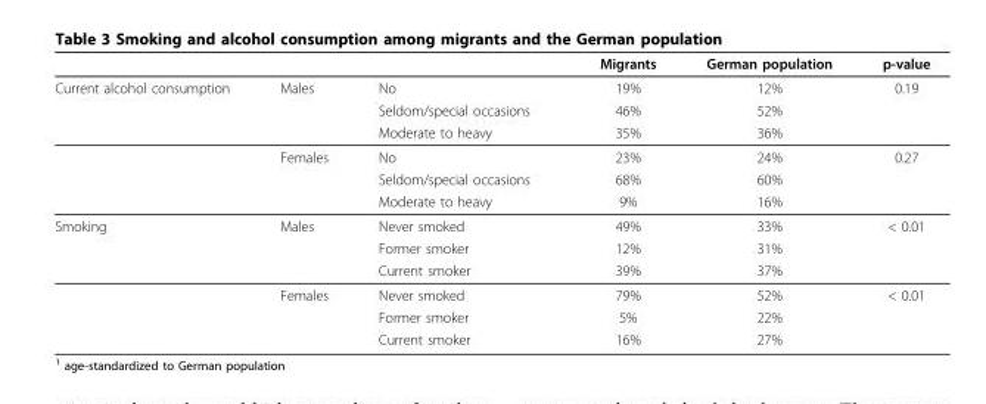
<table><thead><tr><td></td><td></td><td></td><td>Migrants</td><td>German population</td><td>p-value</td></tr></thead><tbody><tr><td rowspan="6">Current alcohol consumption</td><td>Males</td><td>No</td><td>19%</td><td>12%</td><td>0.19</td></tr><tr><td></td><td>Seldom/special occasions</td><td>46%</td><td>52%</td><td></td></tr><tr><td></td><td>Moderate to heavy</td><td>35%</td><td>36%</td><td></td></tr><tr><td>Females</td><td>No</td><td>23%</td><td>24%</td><td>0.27</td></tr><tr><td></td><td>Seldom/special occasions</td><td>68%</td><td>60%</td><td></td></tr><tr><td></td><td>Moderate to heavy</td><td>9%</td><td>16%</td><td></td></tr><tr><td rowspan="6">Smoking</td><td>Males</td><td>Never smoked</td><td>49%</td><td>33%</td><td>&lt; 0.01</td></tr><tr><td></td><td>Former smoker</td><td>12%</td><td>31%</td><td></td></tr><tr><td></td><td>Current smoker</td><td>39%</td><td>37%</td><td></td></tr><tr><td>Females</td><td>Never smoked</td><td>79%</td><td>52%</td><td>&lt; 0.01</td></tr><tr><td></td><td>Former smoker</td><td>5%</td><td>22%</td><td></td></tr><tr><td></td><td>Current smoker</td><td>16%</td><td>27%</td><td></td></tr></tbody></table>